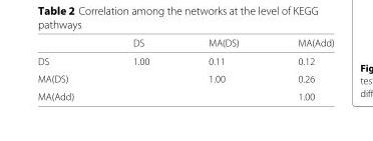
<table><thead><tr><td></td><td>DS</td><td>MA(DS)</td><td>MA(Add)</td></tr></thead><tbody><tr><td>DS</td><td>1.00</td><td>0.11</td><td>0.12</td></tr><tr><td>MA(DS)</td><td></td><td>1.00</td><td>0.26</td></tr><tr><td>MA(Add)</td><td></td><td></td><td>1.00</td></tr></tbody></table>